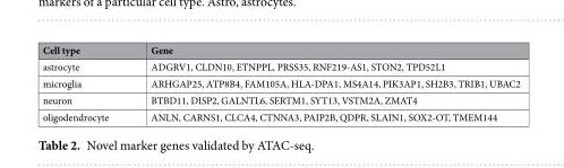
<table><thead><tr><td>Cell type</td><td>Gene</td></tr></thead><tbody><tr><td>astrocyte</td><td>ADGRV1, CLDN10, ETNPPL, PRSS35, RNF219-AS1, STON2, TPD52L1</td></tr><tr><td>microglia</td><td>ARHGAP25, ATP8B4, FAM105A, HLA-DPA1, MS4A14, PIK3AP1, SH2B3, TRIB1, UBAC2</td></tr><tr><td>neuron</td><td>BTBD11, DISP2, GALNTL6, SERTM1, SYT13, VSTM2A, ZMAT4</td></tr><tr><td>oligodendrocyte</td><td>ANLN, CARNS1, CLCA4, CTNNA3, PAIP2B, QDPR, SLAIN1, SOX2-OT, TMEM144</td></tr></tbody></table>